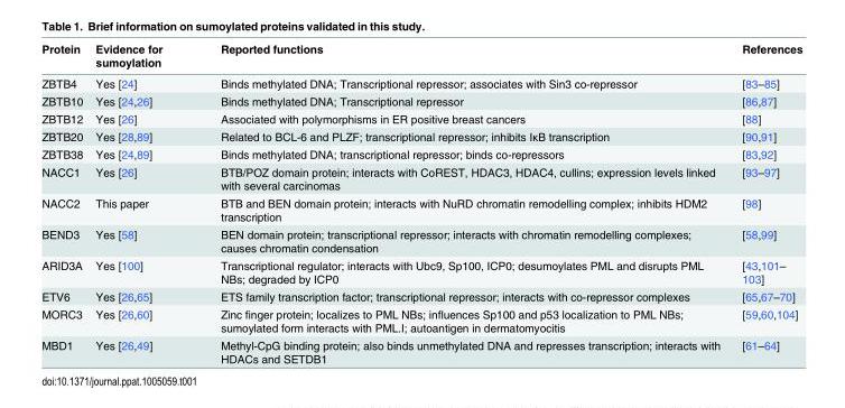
<table><thead><tr><td>Protein</td><td>Evidence for sumoylation</td><td>Reported functions</td><td>References</td></tr></thead><tbody><tr><td>ZBTB4</td><td>Yes [24]</td><td>Binds methylated DNA; Transcriptional repressor; associates with Sin3 co-repressor</td><td>[83–85]</td></tr><tr><td>ZBTB10</td><td>Yes [24,26]</td><td>Binds methylated DNA; Transcriptional repressor</td><td>[86,87]</td></tr><tr><td>ZBTB12</td><td>Yes [26]</td><td>Associated with polymorphisms in ER positive breast cancers</td><td>[88]</td></tr><tr><td>ZBTB20</td><td>Yes [28,89]</td><td>Related to BCL-6 and PLZF; transcriptional repressor; inhibits IκB transcription</td><td>[90,91]</td></tr><tr><td>ZBTB38</td><td>Yes [24,89]</td><td>Binds methylated DNA; transcriptional repressor; binds co-repressors</td><td>[83,92]</td></tr><tr><td>NACC1</td><td>Yes [26]</td><td>BTB/POZ domain protein; interacts with CoREST, HDAC3, HDAC4, cullins; expression levels linked with several carcinomas</td><td>[93–97]</td></tr><tr><td>NACC2</td><td>This paper</td><td>BTB and BEN domain protein; interacts with NuRD chromatin remodelling complex; inhibits HDM2 transcription</td><td>[98]</td></tr><tr><td>BEND3</td><td>Yes [58]</td><td>BEN domain protein; transcriptional repressor; interacts with chromatin remodelling complexes; causes chromatin condensation</td><td>[58,99]</td></tr><tr><td>ARID3A</td><td>Yes [100]</td><td>Transcriptional regulator; interacts with Ubc9, Sp100, ICP0; desumoylates PML and disrupts PML NBs; degraded by ICP0</td><td>[43,101– 103]</td></tr><tr><td>ETV6</td><td>Yes [26,65]</td><td>ETS family transcription factor; transcriptional repressor; interacts with co-repressor complexes</td><td>[65,67–70]</td></tr><tr><td>MORC3</td><td>Yes [26,60]</td><td>Zinc finger protein; localizes to PML NBs; influences Sp100 and p53 localization to PML NBs; sumoylated form interacts with PML.I; autoantigen in dermatomyocitis</td><td>[59,60,104]</td></tr><tr><td>MBD1</td><td>Yes [26,49]</td><td>Methyl-CpG binding protein; also binds unmethylated DNA and represses transcription; interacts with HDACs and SETDB1</td><td>[61–64]</td></tr></tbody></table>